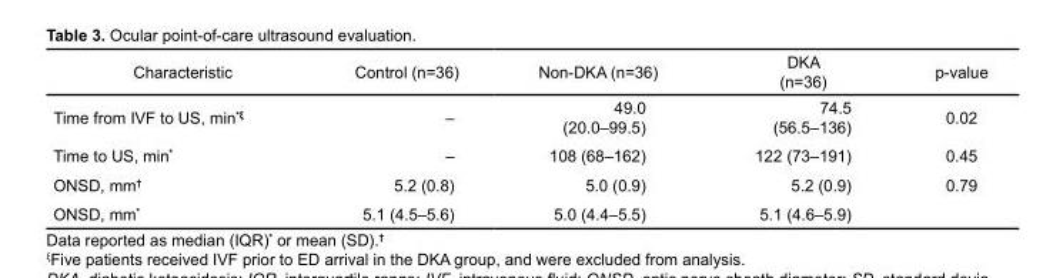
<table><thead><tr><td>Characteristic</td><td>Control (n=36)</td><td>Non-DKA (n=36)</td><td>DKA (n=36)</td><td>p-value</td></tr></thead><tbody><tr><td>Time from IVF to US, min*ξ</td><td>–</td><td>49.0 (20.0–99.5)</td><td>74.5 (56.5–136)</td><td>0.02</td></tr><tr><td>Time to US, min*</td><td>–</td><td>108 (68–162)</td><td>122 (73–191)</td><td>0.45</td></tr><tr><td>ONSD, mm†</td><td>5.2 (0.8)</td><td>5.0 (0.9)</td><td>5.2 (0.9)</td><td>0.79</td></tr><tr><td>ONSD, mm*</td><td>5.1 (4.5–5.6)</td><td>5.0 (4.4–5.5)</td><td>5.1 (4.6–5.9)</td><td></td></tr></tbody></table>